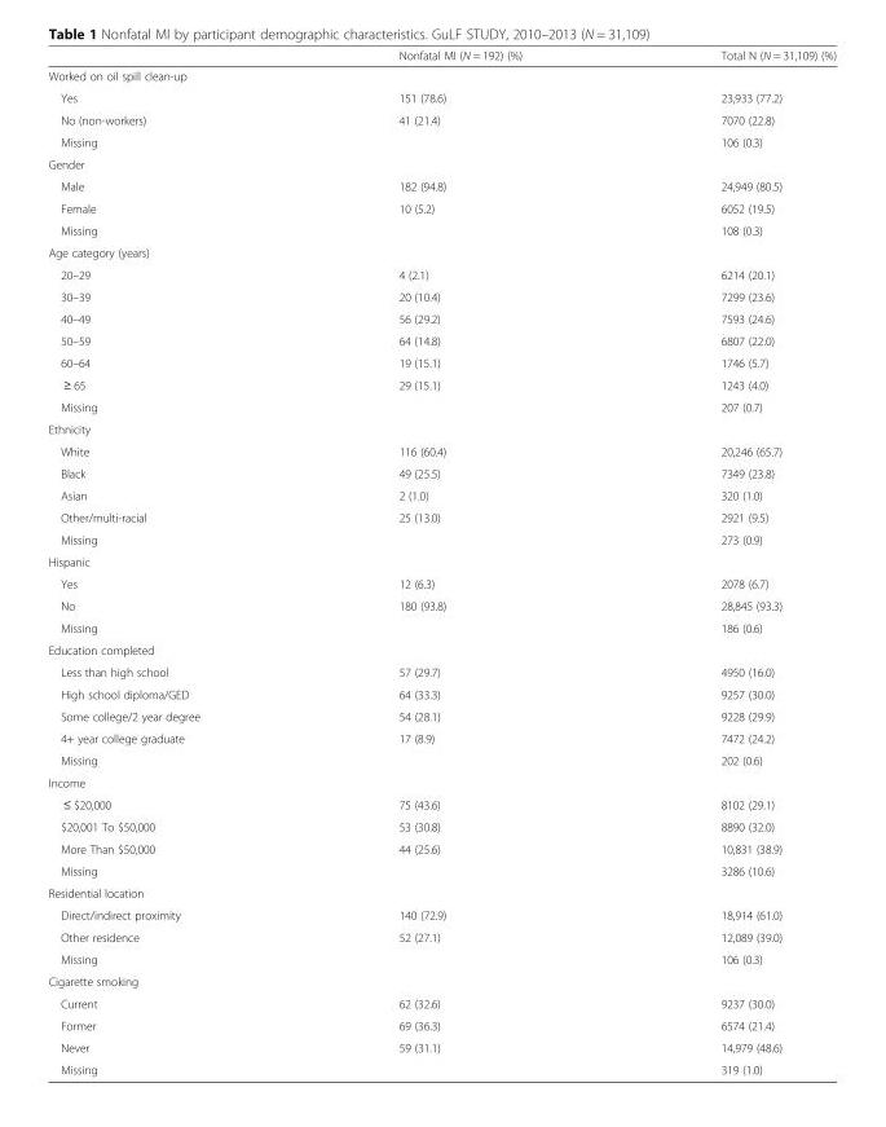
<table><thead><tr><td></td><td>Nonfatal MI (N = 192) (%)</td><td>Total N (N = 31,109) (%)</td></tr></thead><tbody><tr><td colspan="3">Worked on oil spill clean-up</td></tr><tr><td>Yes</td><td>151 (78.6)</td><td>23,933 (77.2)</td></tr><tr><td>No (non-workers)</td><td>41 (21.4)</td><td>7070 (22.8)</td></tr><tr><td>Missing</td><td></td><td>106 (0.3)</td></tr><tr><td colspan="3">Gender</td></tr><tr><td>Male</td><td>182 (94.8)</td><td>24,949 (80.5)</td></tr><tr><td>Female</td><td>10 (5.2)</td><td>6052 (19.5)</td></tr><tr><td>Missing</td><td></td><td>108 (0.3)</td></tr><tr><td colspan="3">Age category (years)</td></tr><tr><td>20–29</td><td>4 (2.1)</td><td>6214 (20.1)</td></tr><tr><td>30–39</td><td>20 (10.4)</td><td>7299 (23.6)</td></tr><tr><td>40–49</td><td>56 (29.2)</td><td>7593 (24.6)</td></tr><tr><td>50–59</td><td>64 (14.8)</td><td>6807 (22.0)</td></tr><tr><td>60–64</td><td>19 (15.1)</td><td>1746 (5.7)</td></tr><tr><td>≥ 65</td><td>29 (15.1)</td><td>1243 (4.0)</td></tr><tr><td>Missing</td><td></td><td>207 (0.7)</td></tr><tr><td colspan="3">Ethnicity</td></tr><tr><td>White</td><td>116 (60.4)</td><td>20,246 (65.7)</td></tr><tr><td>Black</td><td>49 (25.5)</td><td>7349 (23.8)</td></tr><tr><td>Asian</td><td>2 (1.0)</td><td>320 (1.0)</td></tr><tr><td>Other/multi-racial</td><td>25 (13.0)</td><td>2921 (9.5)</td></tr><tr><td>Missing</td><td></td><td>273 (0.9)</td></tr><tr><td colspan="3">Hispanic</td></tr><tr><td>Yes</td><td>12 (6.3)</td><td>2078 (6.7)</td></tr><tr><td>No</td><td>180 (93.8)</td><td>28,845 (93.3)</td></tr><tr><td>Missing</td><td></td><td>186 (0.6)</td></tr><tr><td colspan="3">Education completed</td></tr><tr><td>Less than high school</td><td>57 (29.7)</td><td>4950 (16.0)</td></tr><tr><td>High school diploma/GED</td><td>64 (33.3)</td><td>9257 (30.0)</td></tr><tr><td>Some college/2 year degree</td><td>54 (28.1)</td><td>9228 (29.9)</td></tr><tr><td>4+ year college graduate</td><td>17 (8.9)</td><td>7472 (24.2)</td></tr><tr><td>Missing</td><td></td><td>202 (0.6)</td></tr><tr><td colspan="3">Income</td></tr><tr><td>≤ $20,000</td><td>75 (43.6)</td><td>8102 (29.1)</td></tr><tr><td>$20,001 To $50,000</td><td>53 (30.8)</td><td>8890 (32.0)</td></tr><tr><td>More Than $50,000</td><td>44 (25.6)</td><td>10,831 (38.9)</td></tr><tr><td>Missing</td><td></td><td>3286 (10.6)</td></tr><tr><td colspan="3">Residential location</td></tr><tr><td>Direct/indirect proximity</td><td>140 (72.9)</td><td>18,914 (61.0)</td></tr><tr><td>Other residence</td><td>52 (27.1)</td><td>12,089 (39.0)</td></tr><tr><td>Missing</td><td></td><td>106 (0.3)</td></tr><tr><td colspan="3">Cigarette smoking</td></tr><tr><td>Current</td><td>62 (32.6)</td><td>9237 (30.0)</td></tr><tr><td>Former</td><td>69 (36.3)</td><td>6574 (21.4)</td></tr><tr><td>Never</td><td>59 (31.1)</td><td>14,979 (48.6)</td></tr><tr><td>Missing</td><td></td><td>319 (1.0)</td></tr></tbody></table>